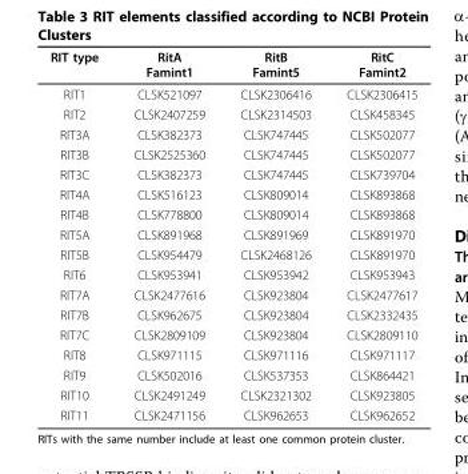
<table><thead><tr><td>RIT type</td><td>RitA Famint1</td><td>RitB Famint5</td><td>RitC Famint2</td></tr></thead><tbody><tr><td>RIT1</td><td>CLSK521097</td><td>CLSK2306416</td><td>CLSK2306415</td></tr><tr><td>RIT2</td><td>CLSK2407259</td><td>CLSK2314503</td><td>CLSK458345</td></tr><tr><td>RIT3A</td><td>CLSK382373</td><td>CLSK747445</td><td>CLSK502077</td></tr><tr><td>RIT3B</td><td>CLSK2525360</td><td>CLSK747445</td><td>CLSK502077</td></tr><tr><td>RIT3C</td><td>CLSK382373</td><td>CLSK747445</td><td>CLSK739704</td></tr><tr><td>RIT4A</td><td>CLSK516123</td><td>CLSK809014</td><td>CLSK893868</td></tr><tr><td>RIT4B</td><td>CLSK778800</td><td>CLSK809014</td><td>CLSK893868</td></tr><tr><td>RIT5A</td><td>CLSK891968</td><td>CLSK891969</td><td>CLSK891970</td></tr><tr><td>RIT5B</td><td>CLSK954479</td><td>CLSK2468126</td><td>CLSK891970</td></tr><tr><td>RIT6</td><td>CLSK953941</td><td>CLSK953942</td><td>CLSK953943</td></tr><tr><td>RIT7A</td><td>CLSK2477616</td><td>CLSK923804</td><td>CLSK2477617</td></tr><tr><td>RIT7B</td><td>CLSK962675</td><td>CLSK923804</td><td>CLSK2332435</td></tr><tr><td>RIT7C</td><td>CLSK2809109</td><td>CLSK923804</td><td>CLSK2809110</td></tr><tr><td>RIT8</td><td>CLSK971115</td><td>CLSK971116</td><td>CLSK971117</td></tr><tr><td>RIT9</td><td>CLSK502016</td><td>CLSK537353</td><td>CLSK864421</td></tr><tr><td>RIT10</td><td>CLSK2491249</td><td>CLSK2321302</td><td>CLSK923805</td></tr><tr><td>RIT11</td><td>CLSK2471156</td><td>CLSK962653</td><td>CLSK962652</td></tr></tbody></table>